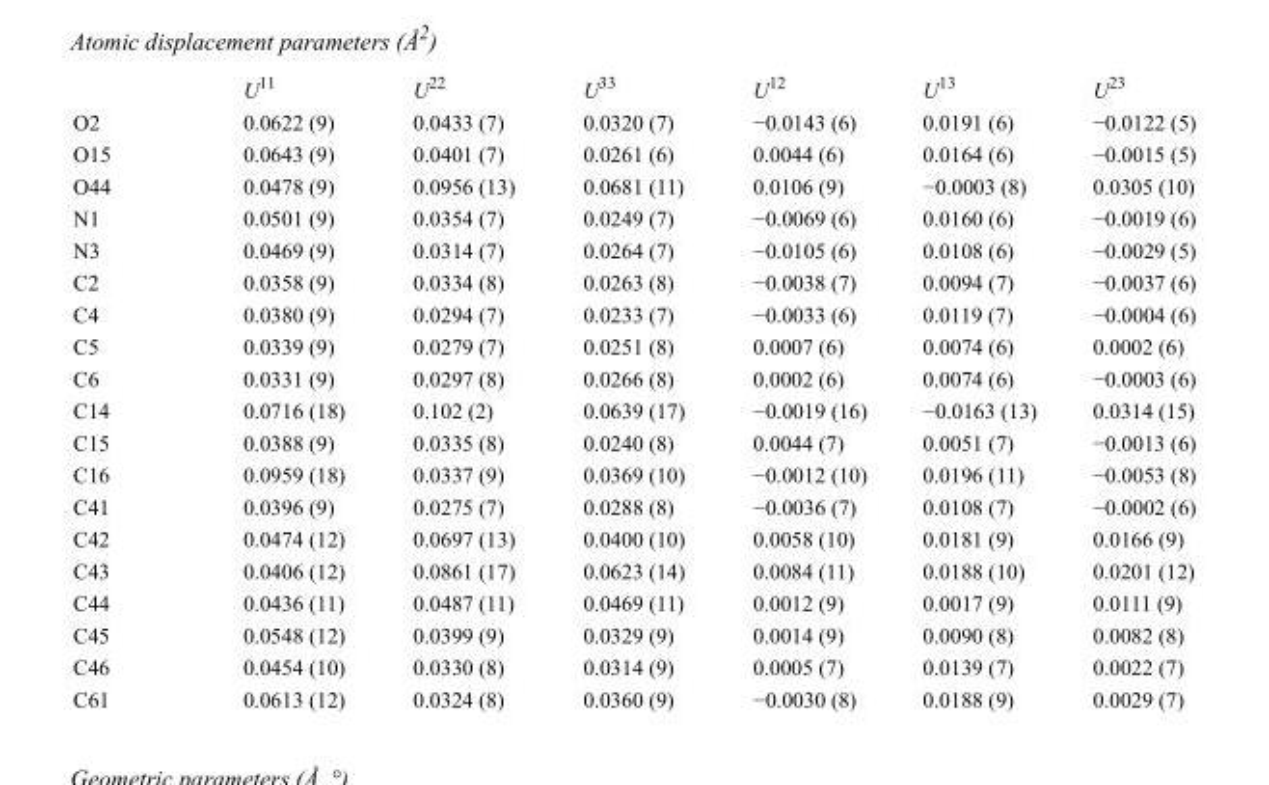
<table><thead><tr><td></td><td>U<sup>11</sup></td><td>U<sup>22</sup></td><td>U<sup>33</sup></td><td>U<sup>12</sup></td><td>U<sup>13</sup></td><td>U<sup>23</sup></td></tr></thead><tbody><tr><td>O2</td><td>0.0622 (9)</td><td>0.0433 (7)</td><td>0.0320 (7)</td><td>−0.0143 (6)</td><td>0.0191 (6)</td><td>−0.0122 (5)</td></tr><tr><td>O15</td><td>0.0643 (9)</td><td>0.0401 (7)</td><td>0.0261 (6)</td><td>0.0044 (6)</td><td>0.0164 (6)</td><td>−0.0015 (5)</td></tr><tr><td>O44</td><td>0.0478 (9)</td><td>0.0956 (13)</td><td>0.0681 (11)</td><td>0.0106 (9)</td><td>−0.0003 (8)</td><td>0.0305 (10)</td></tr><tr><td>N1</td><td>0.0501 (9)</td><td>0.0354 (7)</td><td>0.0249 (7)</td><td>−0.0069 (6)</td><td>0.0160 (6)</td><td>−0.0019 (6)</td></tr><tr><td>N3</td><td>0.0469 (9)</td><td>0.0314 (7)</td><td>0.0264 (7)</td><td>−0.0105 (6)</td><td>0.0108 (6)</td><td>−0.0029 (5)</td></tr><tr><td>C2</td><td>0.0358 (9)</td><td>0.0334 (8)</td><td>0.0263 (8)</td><td>−0.0038 (7)</td><td>0.0094 (7)</td><td>−0.0037 (6)</td></tr><tr><td>C4</td><td>0.0380 (9)</td><td>0.0294 (7)</td><td>0.0233 (7)</td><td>−0.0033 (6)</td><td>0.0119 (7)</td><td>−0.0004 (6)</td></tr><tr><td>C5</td><td>0.0339 (9)</td><td>0.0279 (7)</td><td>0.0251 (8)</td><td>0.0007 (6)</td><td>0.0074 (6)</td><td>0.0002 (6)</td></tr><tr><td>C6</td><td>0.0331 (9)</td><td>0.0297 (8)</td><td>0.0266 (8)</td><td>0.0002 (6)</td><td>0.0074 (6)</td><td>−0.0003 (6)</td></tr><tr><td>C14</td><td>0.0716 (18)</td><td>0.102 (2)</td><td>0.0639 (17)</td><td>−0.0019 (16)</td><td>−0.0163 (13)</td><td>0.0314 (15)</td></tr><tr><td>C15</td><td>0.0388 (9)</td><td>0.0335 (8)</td><td>0.0240 (8)</td><td>0.0044 (7)</td><td>0.0051 (7)</td><td>−0.0013 (6)</td></tr><tr><td>C16</td><td>0.0959 (18)</td><td>0.0337 (9)</td><td>0.0369 (10)</td><td>−0.0012 (10)</td><td>0.0196 (11)</td><td>−0.0053 (8)</td></tr><tr><td>C41</td><td>0.0396 (9)</td><td>0.0275 (7)</td><td>0.0288 (8)</td><td>−0.0036 (7)</td><td>0.0108 (7)</td><td>−0.0002 (6)</td></tr><tr><td>C42</td><td>0.0474 (12)</td><td>0.0697 (13)</td><td>0.0400 (10)</td><td>0.0058 (10)</td><td>0.0181 (9)</td><td>0.0166 (9)</td></tr><tr><td>C43</td><td>0.0406 (12)</td><td>0.0861 (17)</td><td>0.0623 (14)</td><td>0.0084 (11)</td><td>0.0188 (10)</td><td>0.0201 (12)</td></tr><tr><td>C44</td><td>0.0436 (11)</td><td>0.0487 (11)</td><td>0.0469 (11)</td><td>0.0012 (9)</td><td>0.0017 (9)</td><td>0.0111 (9)</td></tr><tr><td>C45</td><td>0.0548 (12)</td><td>0.0399 (9)</td><td>0.0329 (9)</td><td>0.0014 (9)</td><td>0.0090 (8)</td><td>0.0082 (8)</td></tr><tr><td>C46</td><td>0.0454 (10)</td><td>0.0330 (8)</td><td>0.0314 (9)</td><td>0.0005 (7)</td><td>0.0139 (7)</td><td>0.0022 (7)</td></tr><tr><td>C61</td><td>0.0613 (12)</td><td>0.0324 (8)</td><td>0.0360 (9)</td><td>−0.0030 (8)</td><td>0.0188 (9)</td><td>0.0029 (7)</td></tr></tbody></table>